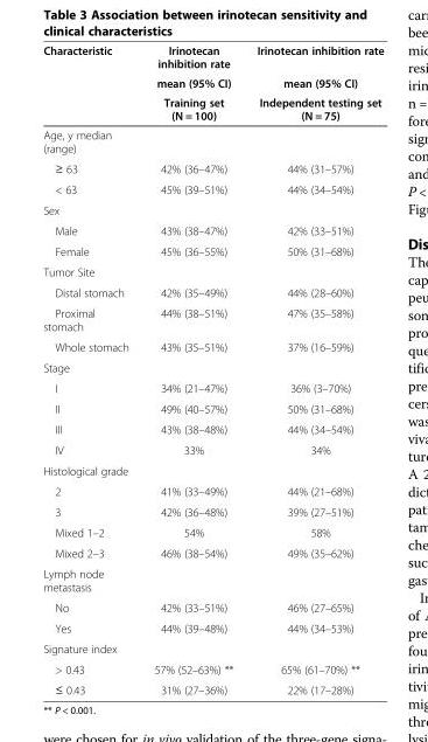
<table><thead><tr><td rowspan="3">Characteristic</td><td rowspan="3">Irinotecan inhibition rate mean (95% CI) Training set (N = 100)</td><td rowspan="3">Irinotecan inhibition rate mean (95% CI) Independent testing set (N = 75)</td></tr><tr></tr><tr></tr></thead><tbody><tr><td colspan="3">Age, y median (range)</td></tr><tr><td>≥ 63</td><td>42% (36–47%)</td><td>44% (31–57%)</td></tr><tr><td>&lt; 63</td><td>45% (39–51%)</td><td>44% (34–54%)</td></tr><tr><td colspan="3">Sex</td></tr><tr><td>Male</td><td>43% (38–47%)</td><td>42% (33–51%)</td></tr><tr><td>Female</td><td>45% (36–55%)</td><td>50% (31–68%)</td></tr><tr><td colspan="3">Tumor Site</td></tr><tr><td>Distal stomach</td><td>42% (35–49%)</td><td>44% (28–60%)</td></tr><tr><td>Proximal stomach</td><td>44% (38–51%)</td><td>47% (35–58%)</td></tr><tr><td>Whole stomach</td><td>43% (35–51%)</td><td>37% (16–59%)</td></tr><tr><td colspan="3">Stage</td></tr><tr><td>I</td><td>34% (21–47%)</td><td>36% (3–70%)</td></tr><tr><td>II</td><td>49% (40–57%)</td><td>50% (31–68%)</td></tr><tr><td>III</td><td>43% (38–48%)</td><td>44% (34–54%)</td></tr><tr><td>IV</td><td>33%</td><td>34%</td></tr><tr><td colspan="3">Histological grade</td></tr><tr><td>2</td><td>41% (33–49%)</td><td>44% (21–68%)</td></tr><tr><td>3</td><td>42% (36–48%)</td><td>39% (27–51%)</td></tr><tr><td>Mixed 1–2</td><td>54%</td><td>58%</td></tr><tr><td>Mixed 2–3</td><td>46% (38–54%)</td><td>49% (35–62%)</td></tr><tr><td colspan="3">Lymph node metastasis</td></tr><tr><td>No</td><td>42% (33–51%)</td><td>46% (27–65%)</td></tr><tr><td>Yes</td><td>44% (39–48%)</td><td>44% (34–53%)</td></tr><tr><td colspan="3">Signature index</td></tr><tr><td>&gt; 0.43</td><td>57% (52–63%) **</td><td>65% (61–70%) **</td></tr><tr><td>≤ 0.43</td><td>31% (27–36%)</td><td>22% (17–28%)</td></tr></tbody></table>